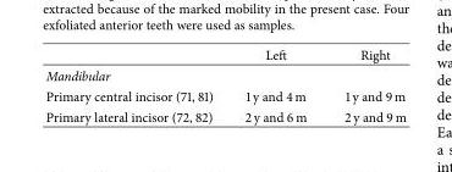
<table><thead><tr><td></td><td>Left</td><td>Right</td></tr></thead><tbody><tr><td colspan="3">Mandibular</td></tr><tr><td>Primary central incisor (71, 81)</td><td>1 y and 4 m</td><td>1 y and 9 m</td></tr><tr><td>Primary lateral incisor (72, 82)</td><td>2 y and 6 m</td><td>2 y and 9 m</td></tr></tbody></table>